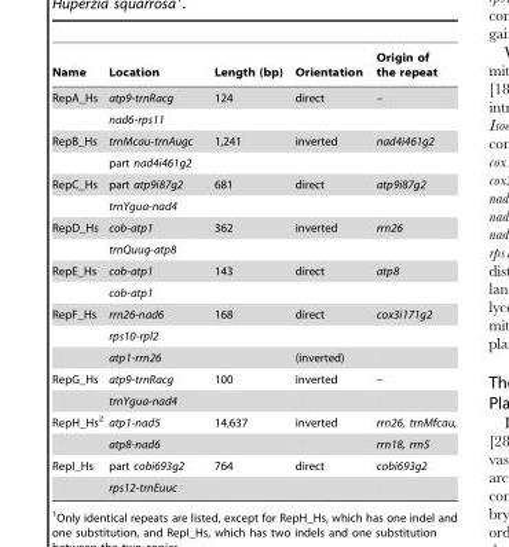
<table><thead><tr><td>Name</td><td>Location</td><td>Length (bp)</td><td>Orientation</td><td>Origin of the repeat</td></tr></thead><tbody><tr><td rowspan="2">RepA_Hs</td><td>atp9-trnRacg</td><td>124</td><td>direct</td><td>–</td></tr><tr><td>nad6-rps11</td><td></td><td></td><td></td></tr><tr><td rowspan="2">RepB_Hs</td><td>trnMcau-trnAugc</td><td>1,241</td><td>inverted</td><td>nad4i461g2</td></tr><tr><td>part nad4i461g2</td><td></td><td></td><td></td></tr><tr><td rowspan="2">RepC_Hs</td><td>part atp9i87g2</td><td>681</td><td>direct</td><td>atp9i87g2</td></tr><tr><td>trnYgua-nad4</td><td></td><td></td><td></td></tr><tr><td rowspan="2">RepD_Hs</td><td>cob-atp1</td><td>362</td><td>inverted</td><td>rrn26</td></tr><tr><td>trnQuug-atp8</td><td></td><td></td><td></td></tr><tr><td rowspan="2">RepE_Hs</td><td>cob-atp1</td><td>143</td><td>direct</td><td>atp8</td></tr><tr><td>cob-atp1</td><td></td><td></td><td></td></tr><tr><td rowspan="3">RepF_Hs</td><td>rrn26-nad6</td><td>168</td><td>direct</td><td>cox3i171g2</td></tr><tr><td>rps10-rpl2</td><td></td><td></td><td></td></tr><tr><td>atp1-rrn26</td><td></td><td>(inverted)</td><td></td></tr><tr><td rowspan="2">RepG_Hs</td><td>atp9-trnRacg</td><td>100</td><td>inverted</td><td>–</td></tr><tr><td>trnYgua-nad4</td><td></td><td></td><td></td></tr><tr><td rowspan="2">RepH_Hs<sup>2</sup></td><td>atp1-nad5</td><td>14,637</td><td>inverted</td><td>rrn26, trnMfcau,</td></tr><tr><td>atp8-nad6</td><td></td><td></td><td>rrn18, rrn5</td></tr><tr><td rowspan="2">RepI_Hs</td><td>part cobi693g2</td><td>764</td><td>direct</td><td>cobi693g2</td></tr><tr><td>rps12-trnEuuc</td><td></td><td></td><td></td></tr></tbody></table>